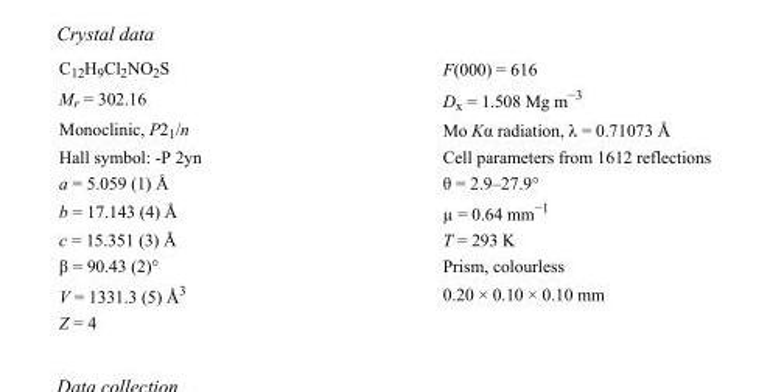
<table><tbody><tr><td>C<sub>12</sub>H<sub>9</sub>Cl<sub>2</sub>NO<sub>2</sub>S</td><td>F(000) = 616</td></tr><tr><td>M<sub>r</sub> = 302.16</td><td>D<sub>x</sub> = 1.508 Mg m<sup>−3</sup></td></tr><tr><td>Monoclinic, P2<sub>1</sub>/n</td><td>Mo Kα radiation, λ = 0.71073 Å</td></tr><tr><td>Hall symbol: -P 2yn</td><td>Cell parameters from 1612 reflections</td></tr><tr><td>a = 5.059 (1) Å</td><td>θ = 2.9–27.9°</td></tr><tr><td>b = 17.143 (4) Å</td><td>µ = 0.64 mm<sup>−1</sup></td></tr><tr><td>c = 15.351 (3) Å</td><td>T = 293 K</td></tr><tr><td>β = 90.43 (2)°</td><td>Prism, colourless</td></tr><tr><td>V = 1331.3 (5) Å<sup>3</sup></td><td>0.20 × 0.10 × 0.10 mm</td></tr><tr><td>Z = 4</td><td></td></tr></tbody></table>